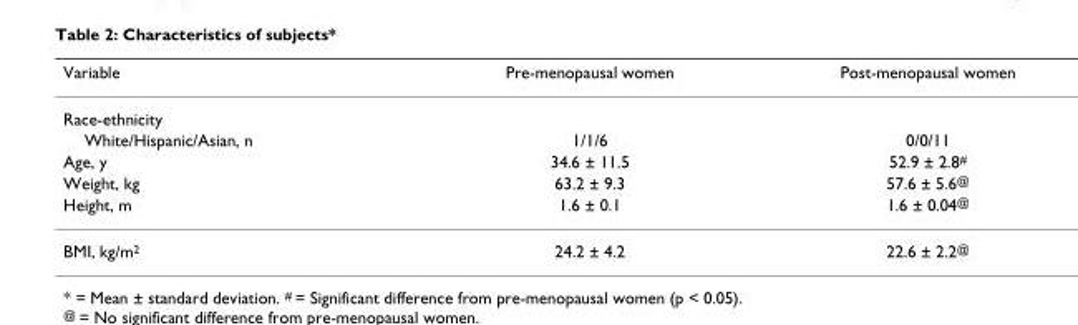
<table><thead><tr><td>Variable</td><td>Pre-menopausal women</td><td>Post-menopausal women</td></tr></thead><tbody><tr><td colspan="3">Race-ethnicity</td></tr><tr><td>White/Hispanic/Asian, n</td><td>1/1/6</td><td>0/0/11</td></tr><tr><td>Age, y</td><td>34.6 ± 11.5</td><td>52.9 ± 2.8<sup>#</sup></td></tr><tr><td>Weight, kg</td><td>63.2 ± 9.3</td><td>57.6 ± 5.6<sup>@</sup></td></tr><tr><td>Height, m</td><td>1.6 ± 0.1</td><td>1.6 ± 0.04<sup>@</sup></td></tr><tr><td>BMI, kg/m<sup>2</sup></td><td>24.2 ± 4.2</td><td>22.6 ± 2.2<sup>@</sup></td></tr></tbody></table>